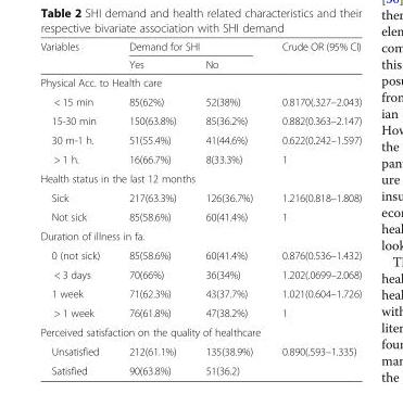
<table><thead><tr><td rowspan="2">Variables</td><td colspan="2">Demand for SHI</td><td rowspan="2">Crude OR (95% CI)</td></tr><tr><td>Yes</td><td>No</td></tr></thead><tbody><tr><td colspan="4">Physical Acc. to Health care</td></tr><tr><td>&lt; 15 min</td><td>85(62%)</td><td>52(38%)</td><td>0.8170(.327–2.043)</td></tr><tr><td>15-30 min</td><td>150(63.8%)</td><td>85(36.2%)</td><td>0.882(0.363–2.147)</td></tr><tr><td>30 m-1 h.</td><td>51(55.4%)</td><td>41(44.6%)</td><td>0.622(0.242–1.597)</td></tr><tr><td>&gt; 1 h.</td><td>16(66.7%)</td><td>8(33.3%)</td><td>1</td></tr><tr><td colspan="4">Health status in the last 12 months</td></tr><tr><td>Sick</td><td>217(63.3%)</td><td>126(36.7%)</td><td>1.216(0.818–1.808)</td></tr><tr><td>Not sick</td><td>85(58.6%)</td><td>60(41.4%)</td><td>1</td></tr><tr><td colspan="4">Duration of illness in fa.</td></tr><tr><td>0 (not sick)</td><td>85(58.6%)</td><td>60(41.4%)</td><td>0.876(0.536–1.432)</td></tr><tr><td>&lt; 3 days</td><td>70(66%)</td><td>36(34%)</td><td>1.202(.0699–2.068)</td></tr><tr><td>1 week</td><td>71(62.3%)</td><td>43(37.7%)</td><td>1.021(0.604–1.726)</td></tr><tr><td>&gt; 1 week</td><td>76(61.8%)</td><td>47(38.2%)</td><td>1</td></tr><tr><td colspan="4">Perceived satisfaction on the quality of healthcare</td></tr><tr><td>Unsatisfied</td><td>212(61.1%)</td><td>135(38.9%)</td><td>0.890(.593–1.335)</td></tr><tr><td>Satisfied</td><td>90(63.8%)</td><td>51(36.2)</td><td></td></tr></tbody></table>